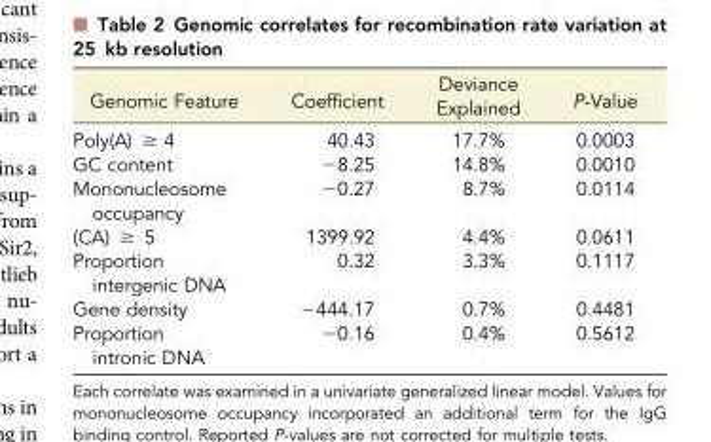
<table><thead><tr><td>Genomic Feature</td><td>Coefficient</td><td>Deviance Explained</td><td>P-Value</td></tr></thead><tbody><tr><td>Poly(A) ≥ 4</td><td>40.43</td><td>17.7%</td><td>0.0003</td></tr><tr><td>GC content</td><td>−8.25</td><td>14.8%</td><td>0.0010</td></tr><tr><td>Mononucleosome occupancy</td><td>−0.27</td><td>8.7%</td><td>0.0114</td></tr><tr><td>(CA) ≥ 5</td><td>1399.92</td><td>4.4%</td><td>0.0611</td></tr><tr><td>Proportion intergenic DNA</td><td>0.32</td><td>3.3%</td><td>0.1117</td></tr><tr><td>Gene density</td><td>−444.17</td><td>0.7%</td><td>0.4481</td></tr><tr><td>Proportion intronic DNA</td><td>−0.16</td><td>0.4%</td><td>0.5612</td></tr></tbody></table>